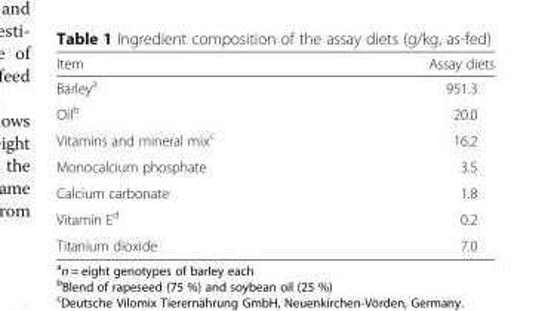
<table><thead><tr><td>Item</td><td>Assay diets</td></tr></thead><tbody><tr><td>Barley<sup>a</sup></td><td>951.3</td></tr><tr><td>Oil<sup>b</sup></td><td>20.0</td></tr><tr><td>Vitamins and mineral mix<sup>c</sup></td><td>16.2</td></tr><tr><td>Monocalcium phosphate</td><td>3.5</td></tr><tr><td>Calcium carbonate</td><td>1.8</td></tr><tr><td>Vitamin E<sup>d</sup></td><td>0.2</td></tr><tr><td>Titanium dioxide</td><td>7.0</td></tr></tbody></table>